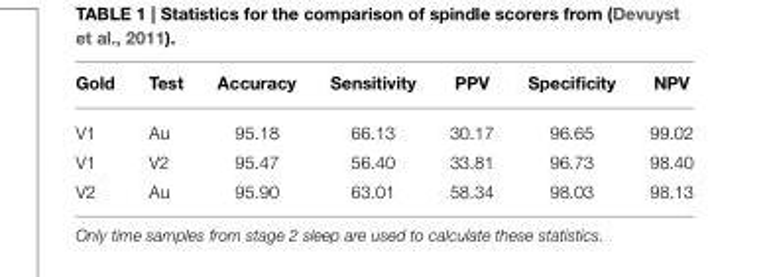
<table><thead><tr><td>Gold</td><td>Test</td><td>Accuracy</td><td>Sensitivity</td><td>PPV</td><td>Specificity</td><td>NPV</td></tr></thead><tbody><tr><td>V1</td><td>Au</td><td>95.18</td><td>66.13</td><td>30.17</td><td>96.65</td><td>99.02</td></tr><tr><td>V1</td><td>V2</td><td>95.47</td><td>56.40</td><td>33.81</td><td>96.73</td><td>98.40</td></tr><tr><td>V2</td><td>Au</td><td>95.90</td><td>63.01</td><td>58.34</td><td>98.03</td><td>98.13</td></tr></tbody></table>